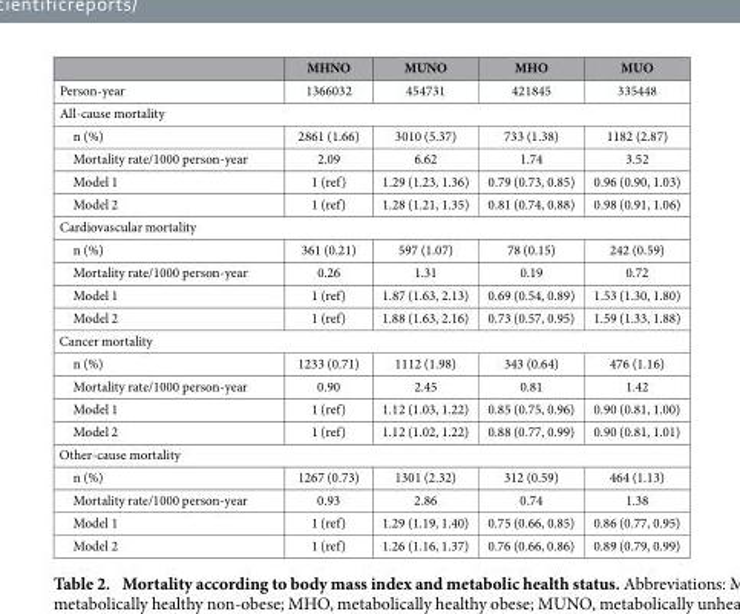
<table><thead><tr><td></td><td>MHNO</td><td>MUNO</td><td>MHO</td><td>MUO</td></tr></thead><tbody><tr><td>Person-year</td><td>1366032</td><td>454731</td><td>421845</td><td>335448</td></tr><tr><td colspan="5">All-cause mortality</td></tr><tr><td>n (%)</td><td>2861 (1.66)</td><td>3010 (5.37)</td><td>733 (1.38)</td><td>1182 (2.87)</td></tr><tr><td>Mortality rate/1000 person-year</td><td>2.09</td><td>6.62</td><td>1.74</td><td>3.52</td></tr><tr><td>Model 1</td><td>1 (ref)</td><td>1.29 (1.23, 1.36)</td><td>0.79 (0.73, 0.85)</td><td>0.96 (0.90, 1.03)</td></tr><tr><td>Model 2</td><td>1 (ref)</td><td>1.28 (1.21, 1.35)</td><td>0.81 (0.74, 0.88)</td><td>0.98 (0.91, 1.06)</td></tr><tr><td colspan="5">Cardiovascular mortality</td></tr><tr><td>n (%)</td><td>361 (0.21)</td><td>597 (1.07)</td><td>78 (0.15)</td><td>242 (0.59)</td></tr><tr><td>Mortality rate/1000 person-year</td><td>0.26</td><td>1.31</td><td>0.19</td><td>0.72</td></tr><tr><td>Model 1</td><td>1 (ref)</td><td>1.87 (1.63, 2.13)</td><td>0.69 (0.54, 0.89)</td><td>1.53 (1.30, 1.80)</td></tr><tr><td>Model 2</td><td>1 (ref)</td><td>1.88 (1.63, 2.16)</td><td>0.73 (0.57, 0.95)</td><td>1.59 (1.33, 1.88)</td></tr><tr><td colspan="5">Cancer mortality</td></tr><tr><td>n (%)</td><td>1233 (0.71)</td><td>1112 (1.98)</td><td>343 (0.64)</td><td>476 (1.16)</td></tr><tr><td>Mortality rate/1000 person-year</td><td>0.90</td><td>2.45</td><td>0.81</td><td>1.42</td></tr><tr><td>Model 1</td><td>1 (ref)</td><td>1.12 (1.03, 1.22)</td><td>0.85 (0.75, 0.96)</td><td>0.90 (0.81, 1.00)</td></tr><tr><td>Model 2</td><td>1 (ref)</td><td>1.12 (1.02, 1.22)</td><td>0.88 (0.77, 0.99)</td><td>0.90 (0.81, 1.01)</td></tr><tr><td colspan="5">Other-cause mortality</td></tr><tr><td>n (%)</td><td>1267 (0.73)</td><td>1301 (2.32)</td><td>312 (0.59)</td><td>464 (1.13)</td></tr><tr><td>Mortality rate/1000 person-year</td><td>0.93</td><td>2.86</td><td>0.74</td><td>1.38</td></tr><tr><td>Model 1</td><td>1 (ref)</td><td>1.29 (1.19, 1.40)</td><td>0.75 (0.66, 0.85)</td><td>0.86 (0.77, 0.95)</td></tr><tr><td>Model 2</td><td>1 (ref)</td><td>1.26 (1.16, 1.37)</td><td>0.76 (0.66, 0.86)</td><td>0.89 (0.79, 0.99)</td></tr></tbody></table>